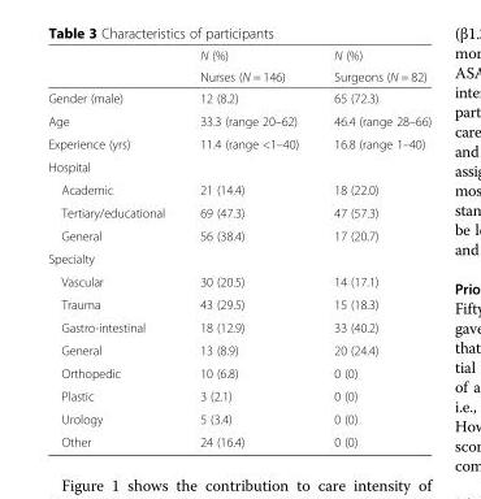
<table><thead><tr><td rowspan="2"></td><td rowspan="2">N (%) Nurses (N = 146)</td><td rowspan="2">N (%) Surgeons (N = 82)</td></tr><tr></tr></thead><tbody><tr><td>Gender (male)</td><td>12 (8.2)</td><td>65 (72.3)</td></tr><tr><td>Age</td><td>33.3 (range 20–62)</td><td>46.4 (range 28–66)</td></tr><tr><td>Experience (yrs)</td><td>11.4 (range &lt;1–40)</td><td>16.8 (range 1–40)</td></tr><tr><td colspan="3">Hospital</td></tr><tr><td>Academic</td><td>21 (14.4)</td><td>18 (22.0)</td></tr><tr><td>Tertiary/educational</td><td>69 (47.3)</td><td>47 (57.3)</td></tr><tr><td>General</td><td>56 (38.4)</td><td>17 (20.7)</td></tr><tr><td colspan="3">Specialty</td></tr><tr><td>Vascular</td><td>30 (20.5)</td><td>14 (17.1)</td></tr><tr><td>Trauma</td><td>43 (29.5)</td><td>15 (18.3)</td></tr><tr><td>Gastro-intestinal</td><td>18 (12.9)</td><td>33 (40.2)</td></tr><tr><td>General</td><td>13 (8.9)</td><td>20 (24.4)</td></tr><tr><td>Orthopedic</td><td>10 (6.8)</td><td>0 (0)</td></tr><tr><td>Plastic</td><td>3 (2.1)</td><td>0 (0)</td></tr><tr><td>Urology</td><td>5 (3.4)</td><td>0 (0)</td></tr><tr><td>Other</td><td>24 (16.4)</td><td>0 (0)</td></tr></tbody></table>